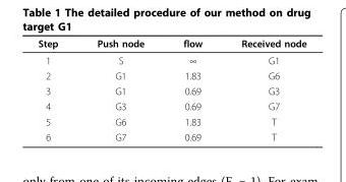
<table><thead><tr><td>Step</td><td>Push node</td><td>flow</td><td>Received node</td></tr></thead><tbody><tr><td>1</td><td>S</td><td>∞</td><td>G1</td></tr><tr><td>2</td><td>G1</td><td>1.83</td><td>G6</td></tr><tr><td>3</td><td>G1</td><td>0.69</td><td>G3</td></tr><tr><td>4</td><td>G3</td><td>0.69</td><td>G7</td></tr><tr><td>5</td><td>G6</td><td>1.83</td><td>T</td></tr><tr><td>6</td><td>G7</td><td>0.69</td><td>T</td></tr></tbody></table>